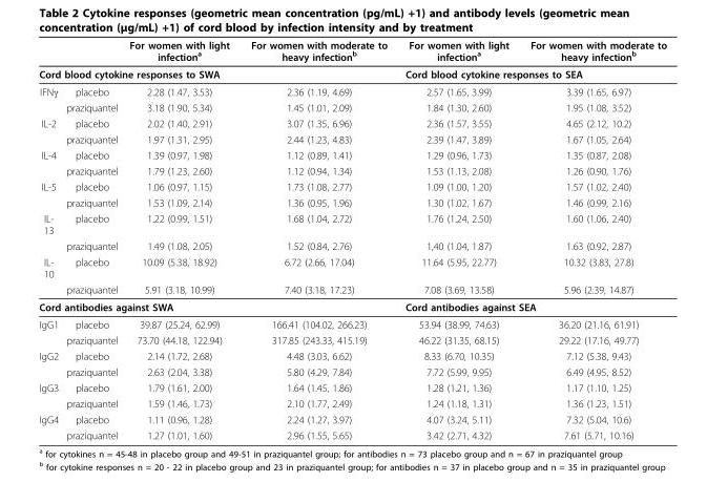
<table><thead><tr><td></td><td></td><td>For women with light infection<sup>a</sup></td><td>For women with moderate to heavy infection<sup>b</sup></td><td>For women with light infection<sup>a</sup></td><td>For women with moderate to heavy infection<sup>b</sup></td></tr></thead><tbody><tr><td colspan="4">Cord blood cytokine responses to SWA</td><td colspan="2">Cord blood cytokine responses to SEA</td></tr><tr><td rowspan="2">IFNγ</td><td>placebo</td><td>2.28 (1.47, 3.53)</td><td>2.36 (1.19, 4.69)</td><td>2.57 (1.65, 3.99)</td><td>3.39 (1.65, 6.97)</td></tr><tr><td>praziquantel</td><td>3.18 (1.90, 5.34)</td><td>1.45 (1.01, 2.09)</td><td>1.84 (1.30, 2.60)</td><td>1.95 (1.08, 3.52)</td></tr><tr><td rowspan="2">IL-2</td><td>placebo</td><td>2.02 (1.40, 2.91)</td><td>3.07 (1.35, 6.96)</td><td>2.36 (1.57, 3.55)</td><td>4.65 (2.12, 10.2)</td></tr><tr><td>praziquantel</td><td>1.97 (1.31, 2.95)</td><td>2.44 (1.23, 4.83)</td><td>2.39 (1.47, 3.89)</td><td>1.67 (1.05, 2.64)</td></tr><tr><td rowspan="2">IL-4</td><td>placebo</td><td>1.39 (0.97, 1.98)</td><td>1.12 (0.89, 1.41)</td><td>1.29 (0.96, 1.73)</td><td>1.35 (0.87, 2.08)</td></tr><tr><td>praziquantel</td><td>1.79 (1.23, 2.60)</td><td>1.12 (0.94, 1.34)</td><td>1.53 (1.13, 2.08)</td><td>1.26 (0.90, 1.76)</td></tr><tr><td rowspan="2">IL-5</td><td>placebo</td><td>1.06 (0.97, 1.15)</td><td>1.73 (1.08, 2.77)</td><td>1.09 (1.00, 1.20)</td><td>1.57 (1.02, 2.40)</td></tr><tr><td>praziquantel</td><td>1.53 (1.09, 2.14)</td><td>1.36 (0.95, 1.96)</td><td>1.30 (1.02, 1.67)</td><td>1.46 (0.99, 2.16)</td></tr><tr><td rowspan="2">IL- 13</td><td>placebo</td><td>1.22 (0.99, 1.51)</td><td>1.68 (1.04, 2.72)</td><td>1.76 (1.24, 2.50)</td><td>1.60 (1.06, 2.40)</td></tr><tr><td>praziquantel</td><td>1.49 (1.08, 2.05)</td><td>1.52 (0.84, 2.76)</td><td>1,40 (1.04, 1.87)</td><td>1.63 (0.92, 2.87)</td></tr><tr><td rowspan="2">IL- 10</td><td>placebo</td><td>10.09 (5.38, 18.92)</td><td>6.72 (2.66, 17.04)</td><td>11.64 (5.95, 22.77)</td><td>10.32 (3.83, 27.8)</td></tr><tr><td>praziquantel</td><td>5.91 (3.18, 10.99)</td><td>7.40 (3.18, 17.23)</td><td>7.08 (3.69, 13.58)</td><td>5.96 (2.39, 14.87)</td></tr><tr><td colspan="4">Cord antibodies against SWA</td><td colspan="2">Cord antibodies against SEA</td></tr><tr><td rowspan="2">IgG1</td><td>placebo</td><td>39.87 (25.24, 62.99)</td><td>166.41 (104.02, 266.23)</td><td>53.94 (38.99, 74.63)</td><td>36.20 (21.16, 61.91)</td></tr><tr><td>praziquantel</td><td>73.70 (44.18, 122.94)</td><td>317.85 (243.33, 415.19)</td><td>46.22 (31.35, 68.15)</td><td>29.22 (17.16, 49.77)</td></tr><tr><td rowspan="2">IgG2</td><td>placebo</td><td>2.14 (1.72, 2.68)</td><td>4.48 (3.03, 6.62)</td><td>8.33 (6.70, 10.35)</td><td>7.12 (5.38, 9.43)</td></tr><tr><td>praziquantel</td><td>2.63 (2.04, 3.38)</td><td>5.80 (4.29, 7.84)</td><td>7.72 (5.99, 9.95)</td><td>6.49 (4.95, 8.52)</td></tr><tr><td rowspan="2">IgG3</td><td>placebo</td><td>1.79 (1.61, 2.00)</td><td>1.64 (1.45, 1.86)</td><td>1.28 (1.21, 1.36)</td><td>1.17 (1.10, 1.25)</td></tr><tr><td>praziquantel</td><td>1.59 (1.46, 1.73)</td><td>2.10 (1.77, 2.49)</td><td>1.24 (1.18, 1.31)</td><td>1.36 (1.23, 1.51)</td></tr><tr><td rowspan="2">IgG4</td><td>placebo</td><td>1.11 (0.96, 1.28)</td><td>2.24 (1.27, 3.97)</td><td>4.07 (3.24, 5.11)</td><td>7.32 (5.04, 10.6)</td></tr><tr><td>praziquantel</td><td>1.27 (1.01, 1.60)</td><td>2.96 (1.55, 5.65)</td><td>3.42 (2.71, 4.32)</td><td>7.61 (5.71, 10.16)</td></tr></tbody></table>